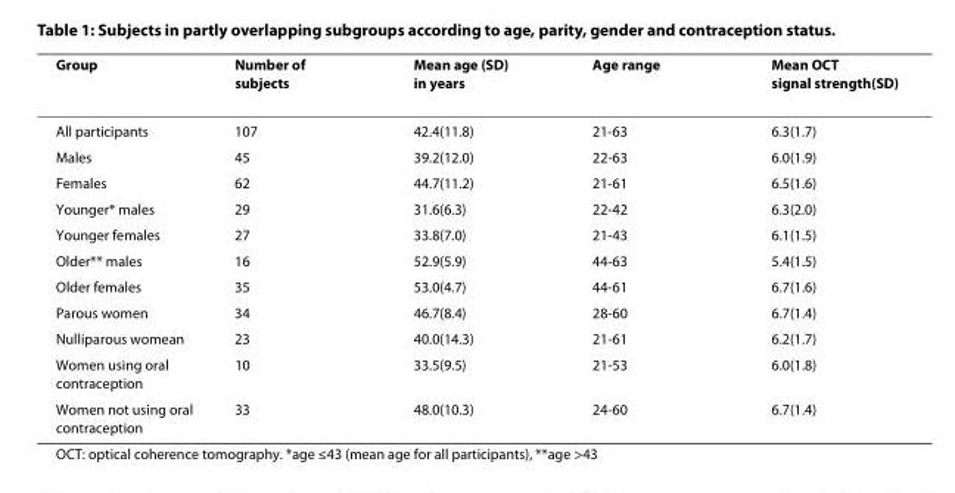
<table><thead><tr><td>Group</td><td>Number of subjects</td><td>Mean age (SD) in years</td><td>Age range</td><td>Mean OCT signal strength(SD)</td></tr></thead><tbody><tr><td>All participants</td><td>107</td><td>42.4(11.8)</td><td>21-63</td><td>6.3(1.7)</td></tr><tr><td>Males</td><td>45</td><td>39.2(12.0)</td><td>22-63</td><td>6.0(1.9)</td></tr><tr><td>Females</td><td>62</td><td>44.7(11.2)</td><td>21-61</td><td>6.5(1.6)</td></tr><tr><td>Younger* males</td><td>29</td><td>31.6(6.3)</td><td>22-42</td><td>6.3(2.0)</td></tr><tr><td>Younger females</td><td>27</td><td>33.8(7.0)</td><td>21-43</td><td>6.1(1.5)</td></tr><tr><td>Older** males</td><td>16</td><td>52.9(5.9)</td><td>44-63</td><td>5.4(1.5)</td></tr><tr><td>Older females</td><td>35</td><td>53.0(4.7)</td><td>44-61</td><td>6.7(1.6)</td></tr><tr><td>Parous women</td><td>34</td><td>46.7(8.4)</td><td>28-60</td><td>6.7(1.4)</td></tr><tr><td>Nulliparous womean</td><td>23</td><td>40.0(14.3)</td><td>21-61</td><td>6.2(1.7)</td></tr><tr><td>Women using oral contraception</td><td>10</td><td>33.5(9.5)</td><td>21-53</td><td>6.0(1.8)</td></tr><tr><td>Women not using oral contraception</td><td>33</td><td>48.0(10.3)</td><td>24-60</td><td>6.7(1.4)</td></tr></tbody></table>